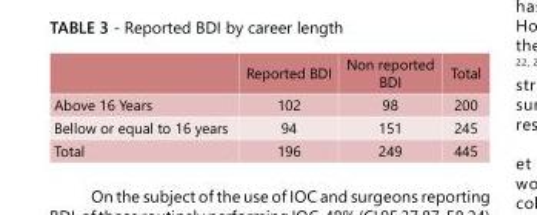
<table><thead><tr><td></td><td>Reported BDI</td><td>Non reported BDI</td><td>Total</td></tr></thead><tbody><tr><td>Above 16 Years</td><td>102</td><td>98</td><td>200</td></tr><tr><td>Bellow or equal to 16 years</td><td>94</td><td>151</td><td>245</td></tr><tr><td>Total</td><td>196</td><td>249</td><td>445</td></tr></tbody></table>